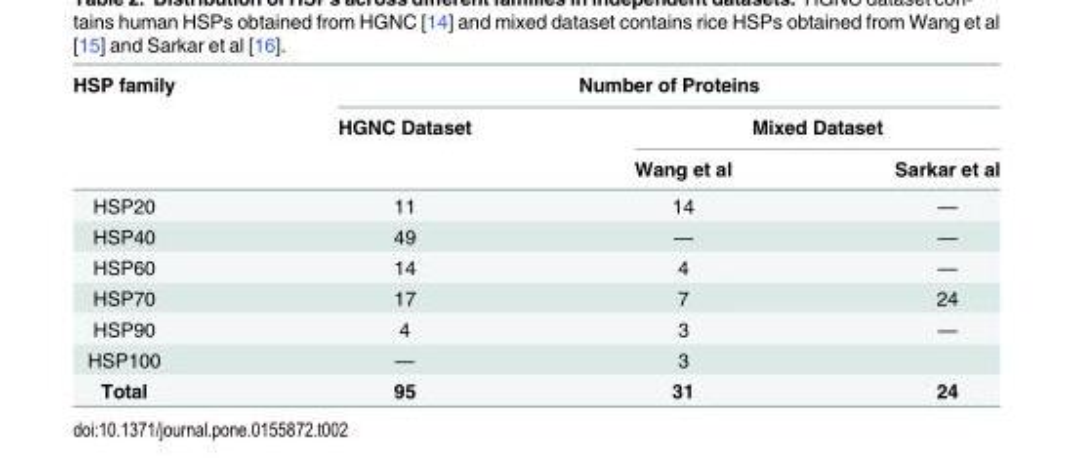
<table><thead><tr><td rowspan="3">HSP family</td><td colspan="3">Number of Proteins</td></tr><tr><td rowspan="2">HGNC Dataset</td><td colspan="2">Mixed Dataset</td></tr><tr><td>Wang et al</td><td>Sarkar et al</td></tr></thead><tbody><tr><td>HSP20</td><td>11</td><td>14</td><td>—</td></tr><tr><td>HSP40</td><td>49</td><td>—</td><td>—</td></tr><tr><td>HSP60</td><td>14</td><td>4</td><td>—</td></tr><tr><td>HSP70</td><td>17</td><td>7</td><td>24</td></tr><tr><td>HSP90</td><td>4</td><td>3</td><td>—</td></tr><tr><td>HSP100</td><td>—</td><td>3</td><td></td></tr><tr><td>Total</td><td>95</td><td>31</td><td>24</td></tr></tbody></table>